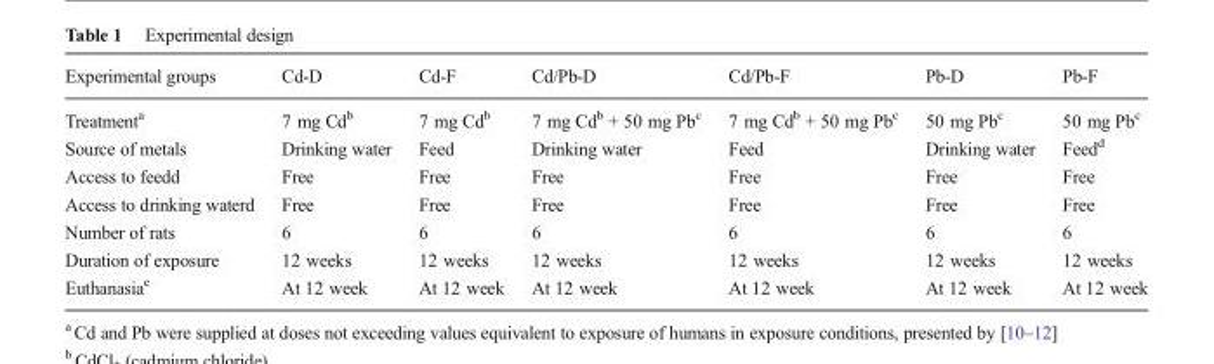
<table><thead><tr><td>Experimental groups</td><td>Cd-D</td><td>Cd-F</td><td>Cd/Pb-D</td><td>Cd/Pb-F</td><td>Pb-D</td><td>Pb-F</td></tr></thead><tbody><tr><td>Treatment<sup>a</sup></td><td>7 mg Cd<sup>b</sup></td><td>7 mg Cd<sup>b</sup></td><td>7 mg Cd<sup>b</sup> + 50 mg Pb<sup>c</sup></td><td>7 mg Cd<sup>b</sup> + 50 mg Pb<sup>c</sup></td><td>50 mg Pb<sup>c</sup></td><td>50 mg Pb<sup>c</sup></td></tr><tr><td>Source of metals</td><td>Drinking water</td><td>Feed</td><td>Drinking water</td><td>Feed</td><td>Drinking water</td><td>Feed<sup>d</sup></td></tr><tr><td>Access to feedd</td><td>Free</td><td>Free</td><td>Free</td><td>Free</td><td>Free</td><td>Free</td></tr><tr><td>Access to drinking waterd</td><td>Free</td><td>Free</td><td>Free</td><td>Free</td><td>Free</td><td>Free</td></tr><tr><td>Number of rats</td><td>6</td><td>6</td><td>6</td><td>6</td><td>6</td><td>6</td></tr><tr><td>Duration of exposure</td><td>12 weeks</td><td>12 weeks</td><td>12 weeks</td><td>12 weeks</td><td>12 weeks</td><td>12 weeks</td></tr><tr><td>Euthanasia<sup>e</sup></td><td>At 12 week</td><td>At 12 week</td><td>At 12 week</td><td>At 12 week</td><td>At 12 week</td><td>At 12 week</td></tr></tbody></table>